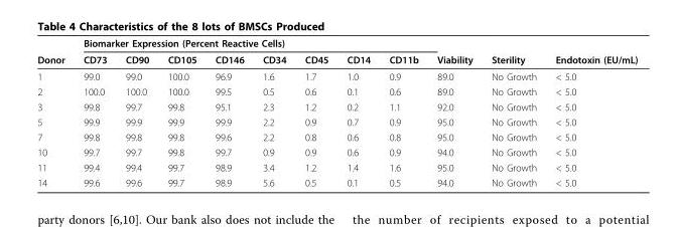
<table><thead><tr><td rowspan="2">Donor</td><td colspan="8">Biomarker Expression (Percent Reactive Cells)</td><td rowspan="2">Viability</td><td rowspan="2">Sterility</td><td rowspan="2">Endotoxin (EU/mL)</td></tr><tr><td>CD73</td><td>CD90</td><td>CD105</td><td>CD146</td><td>CD34</td><td>CD45</td><td>CD14</td><td>CD11b</td></tr></thead><tbody><tr><td>1</td><td>99.0</td><td>99.0</td><td>100.0</td><td>96.9</td><td>1.6</td><td>1.7</td><td>1.0</td><td>0.9</td><td>89.0</td><td>No Growth</td><td>&lt; 5.0</td></tr><tr><td>2</td><td>100.0</td><td>100.0</td><td>100.0</td><td>99.5</td><td>0.5</td><td>0.6</td><td>0.1</td><td>0.6</td><td>89.0</td><td>No Growth</td><td>&lt; 5.0</td></tr><tr><td>3</td><td>99.8</td><td>99.7</td><td>99.8</td><td>95.1</td><td>2.3</td><td>1.2</td><td>0.2</td><td>1.1</td><td>92.0</td><td>No Growth</td><td>&lt; 5.0</td></tr><tr><td>5</td><td>99.9</td><td>99.9</td><td>99.9</td><td>99.9</td><td>2.2</td><td>0.9</td><td>0.7</td><td>0.9</td><td>95.0</td><td>No Growth</td><td>&lt; 5.0</td></tr><tr><td>7</td><td>99.8</td><td>99.8</td><td>99.8</td><td>99.6</td><td>2.2</td><td>0.8</td><td>0.6</td><td>0.8</td><td>95.0</td><td>No Growth</td><td>&lt; 5.0</td></tr><tr><td>10</td><td>99.7</td><td>99.7</td><td>99.8</td><td>99.7</td><td>0.9</td><td>0.9</td><td>0.6</td><td>0.9</td><td>94.0</td><td>No Growth</td><td>&lt; 5.0</td></tr><tr><td>11</td><td>99.4</td><td>99.4</td><td>99.7</td><td>98.9</td><td>3.4</td><td>1.2</td><td>1.4</td><td>1.6</td><td>95.0</td><td>No Growth</td><td>&lt; 5.0</td></tr><tr><td>14</td><td>99.6</td><td>99.6</td><td>99.7</td><td>98.9</td><td>5.6</td><td>0.5</td><td>0.1</td><td>0.5</td><td>94.0</td><td>No Growth</td><td>&lt; 5.0</td></tr></tbody></table>